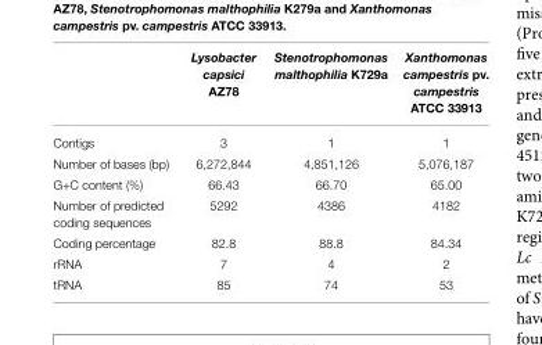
<table><thead><tr><td></td><td>Lysobacter capsici AZ78</td><td>Stenotrophomonas malthophilia K729a</td><td>Xanthomonas campestris pv. campestris ATCC 33913</td></tr></thead><tbody><tr><td>Contigs</td><td>3</td><td>1</td><td>1</td></tr><tr><td>Number of bases (bp)</td><td>6,272,844</td><td>4,851,126</td><td>5,076,187</td></tr><tr><td>G+C content (%)</td><td>66.43</td><td>66.70</td><td>65.00</td></tr><tr><td>Number of predicted coding sequences</td><td>5292</td><td>4386</td><td>4182</td></tr><tr><td>Coding percentage</td><td>82.8</td><td>88.8</td><td>84.34</td></tr><tr><td>rRNA</td><td>7</td><td>4</td><td>2</td></tr><tr><td>tRNA</td><td>85</td><td>74</td><td>53</td></tr></tbody></table>